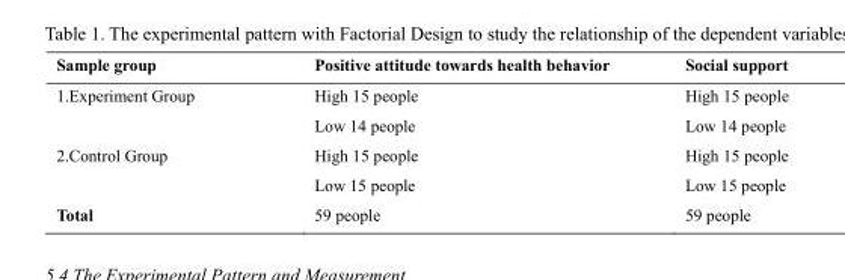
<table><thead><tr><td>Sample group</td><td>Positive attitude towards health behavior</td><td>Social support</td></tr></thead><tbody><tr><td rowspan="2">1.Experiment Group</td><td>High 15 people</td><td>High 15 people</td></tr><tr><td>Low 14 people</td><td>Low 14 people</td></tr><tr><td rowspan="2">2.Control Group</td><td>High 15 people</td><td>High 15 people</td></tr><tr><td>Low 15 people</td><td>Low 15 people</td></tr><tr><td>Total</td><td>59 people</td><td>59 people</td></tr></tbody></table>